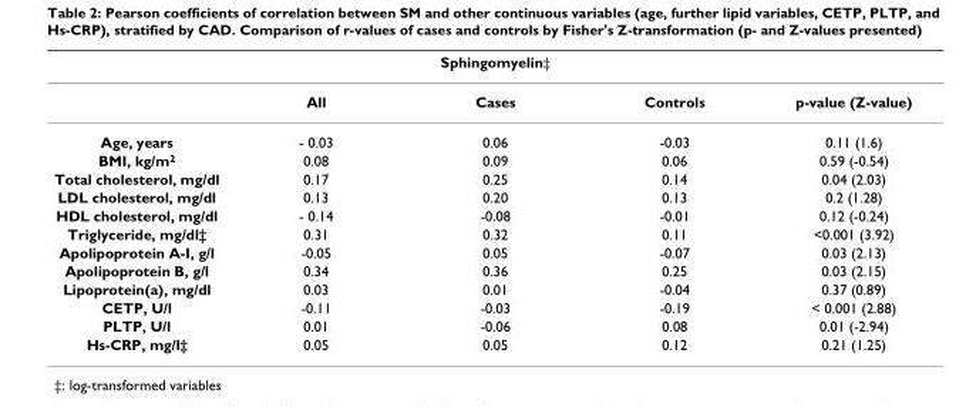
<table><thead><tr><td colspan="5">Sphingomyelin‡</td></tr><tr><td></td><td>All</td><td>Cases</td><td>Controls</td><td>p-value (Z-value)</td></tr></thead><tbody><tr><td>Age, years</td><td>- 0.03</td><td>0.06</td><td>-0.03</td><td>0.11 (1.6)</td></tr><tr><td>BMI, kg/m<sup>2</sup></td><td>0.08</td><td>0.09</td><td>0.06</td><td>0.59 (-0.54)</td></tr><tr><td>Total cholesterol, mg/dl</td><td>0.17</td><td>0.25</td><td>0.14</td><td>0.04 (2.03)</td></tr><tr><td>LDL cholesterol, mg/dl</td><td>0.13</td><td>0.20</td><td>0.13</td><td>0.2 (1.28)</td></tr><tr><td>HDL cholesterol, mg/dl</td><td>- 0.14</td><td>-0.08</td><td>-0.01</td><td>0.12 (-0.24)</td></tr><tr><td>Triglyceride, mg/dl‡</td><td>0.31</td><td>0.32</td><td>0.11</td><td>&lt;0.001 (3.92)</td></tr><tr><td>Apolipoprotein A-I, g/l</td><td>-0.05</td><td>0.05</td><td>-0.07</td><td>0.03 (2.13)</td></tr><tr><td>Apolipoprotein B, g/l</td><td>0.34</td><td>0.36</td><td>0.25</td><td>0.03 (2.15)</td></tr><tr><td>Lipoprotein(a), mg/dl</td><td>0.03</td><td>0.01</td><td>-0.04</td><td>0.37 (0.89)</td></tr><tr><td>CETP, U/l</td><td>-0.11</td><td>-0.03</td><td>-0.19</td><td>&lt; 0.001 (2.88)</td></tr><tr><td>PLTP, U/l</td><td>0.01</td><td>-0.06</td><td>0.08</td><td>0.01 (-2.94)</td></tr><tr><td>Hs-CRP, mg/l‡</td><td>0.05</td><td>0.05</td><td>0.12</td><td>0.21 (1.25)</td></tr></tbody></table>